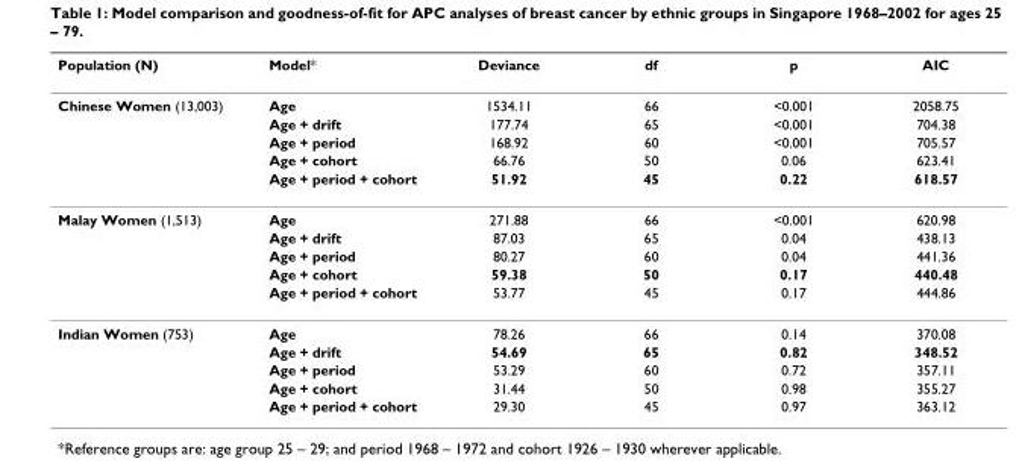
<table><thead><tr><td>Population (N)</td><td>Model*</td><td>Deviance</td><td>df</td><td>p</td><td>AIC</td></tr></thead><tbody><tr><td rowspan="5">Chinese Women (13,003)</td><td>Age</td><td>1534.11</td><td>66</td><td>&lt;0.001</td><td>2058.75</td></tr><tr><td>Age + drift</td><td>177.74</td><td>65</td><td>&lt;0.001</td><td>704.38</td></tr><tr><td>Age + period</td><td>168.92</td><td>60</td><td>&lt;0.001</td><td>705.57</td></tr><tr><td>Age + cohort</td><td>66.76</td><td>50</td><td>0.06</td><td>623.41</td></tr><tr><td>Age + period + cohort</td><td>51.92</td><td>45</td><td>0.22</td><td>618.57</td></tr><tr><td rowspan="5">Malay Women (1,513)</td><td>Age</td><td>271.88</td><td>66</td><td>&lt;0.001</td><td>620.98</td></tr><tr><td>Age + drift</td><td>87.03</td><td>65</td><td>0.04</td><td>438.13</td></tr><tr><td>Age + period</td><td>80.27</td><td>60</td><td>0.04</td><td>441.36</td></tr><tr><td>Age + cohort</td><td>59.38</td><td>50</td><td>0.17</td><td>440.48</td></tr><tr><td>Age + period + cohort</td><td>53.77</td><td>45</td><td>0.17</td><td>444.86</td></tr><tr><td rowspan="5">Indian Women (753)</td><td>Age</td><td>78.26</td><td>66</td><td>0.14</td><td>370.08</td></tr><tr><td>Age + drift</td><td>54.69</td><td>65</td><td>0.82</td><td>348.52</td></tr><tr><td>Age + period</td><td>53.29</td><td>60</td><td>0.72</td><td>357.11</td></tr><tr><td>Age + cohort</td><td>31.44</td><td>50</td><td>0.98</td><td>355.27</td></tr><tr><td>Age + period + cohort</td><td>29.30</td><td>45</td><td>0.97</td><td>363.12</td></tr></tbody></table>